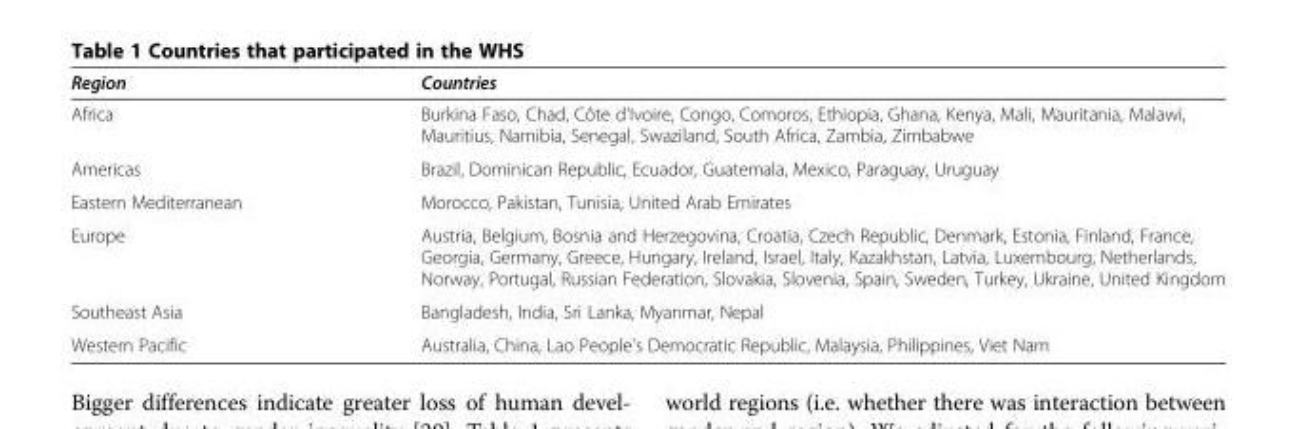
<table><thead><tr><td>Region</td><td>Countries</td></tr></thead><tbody><tr><td>Africa</td><td>Burkina Faso, Chad, Côte d&#x27;Ivoire, Congo, Comoros, Ethiopia, Ghana, Kenya, Mali, Mauritania, Malawi, Mauritius, Namibia, Senegal, Swaziland, South Africa, Zambia, Zimbabwe</td></tr><tr><td>Americas</td><td>Brazil, Dominican Republic, Ecuador, Guatemala, Mexico, Paraguay, Uruguay</td></tr><tr><td>Eastern Mediterranean</td><td>Morocco, Pakistan, Tunisia, United Arab Emirates</td></tr><tr><td>Europe</td><td>Austria, Belgium, Bosnia and Herzegovina, Croatia, Czech Republic, Denmark, Estonia, Finland, France, Georgia, Germany, Greece, Hungary, Ireland, Israel, Italy, Kazakhstan, Latvia, Luxembourg, Netherlands, Norway, Portugal, Russian Federation, Slovakia, Slovenia, Spain, Sweden, Turkey, Ukraine, United Kingdom</td></tr><tr><td>Southeast Asia</td><td>Bangladesh, India, Sri Lanka, Myanmar, Nepal</td></tr><tr><td>Western Pacific</td><td>Australia, China, Lao People&#x27;s Democratic Republic, Malaysia, Philippines, Viet Nam</td></tr></tbody></table>